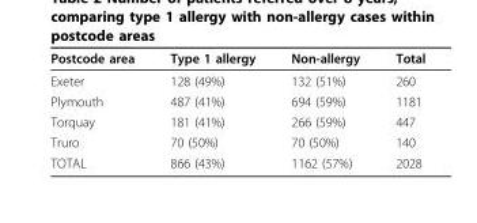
<table><thead><tr><td>Postcode area</td><td>Type 1 allergy</td><td>Non-allergy</td><td>Total</td></tr></thead><tbody><tr><td>Exeter</td><td>128 (49%)</td><td>132 (51%)</td><td>260</td></tr><tr><td>Plymouth</td><td>487 (41%)</td><td>694 (59%)</td><td>1181</td></tr><tr><td>Torquay</td><td>181 (41%)</td><td>266 (59%)</td><td>447</td></tr><tr><td>Truro</td><td>70 (50%)</td><td>70 (50%)</td><td>140</td></tr><tr><td>TOTAL</td><td>866 (43%)</td><td>1162 (57%)</td><td>2028</td></tr></tbody></table>